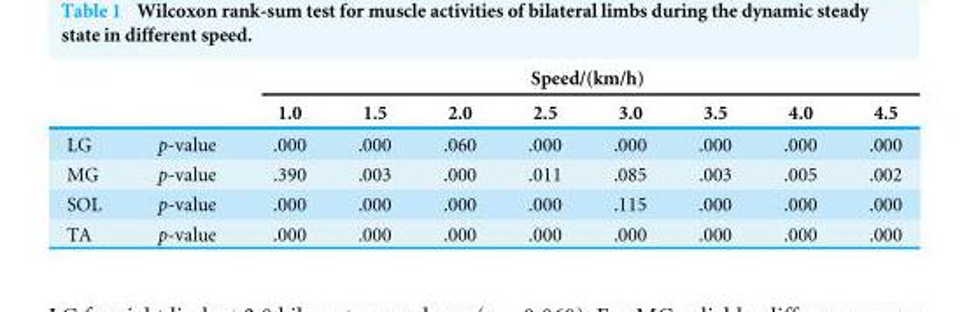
<table><thead><tr><td rowspan="2"></td><td rowspan="2"></td><td colspan="8">Speed/(km/h)</td></tr><tr><td>1.0</td><td>1.5</td><td>2.0</td><td>2.5</td><td>3.0</td><td>3.5</td><td>4.0</td><td>4.5</td></tr></thead><tbody><tr><td>LG</td><td>p-value</td><td>.000</td><td>.000</td><td>.060</td><td>.000</td><td>.000</td><td>.000</td><td>.000</td><td>.000</td></tr><tr><td>MG</td><td>p-value</td><td>.390</td><td>.003</td><td>.000</td><td>.011</td><td>.085</td><td>.003</td><td>.005</td><td>.002</td></tr><tr><td>SOL</td><td>p-value</td><td>.000</td><td>.000</td><td>.000</td><td>.000</td><td>.115</td><td>.000</td><td>.000</td><td>.000</td></tr><tr><td>TA</td><td>p-value</td><td>.000</td><td>.000</td><td>.000</td><td>.000</td><td>.000</td><td>.000</td><td>.000</td><td>.000</td></tr></tbody></table>